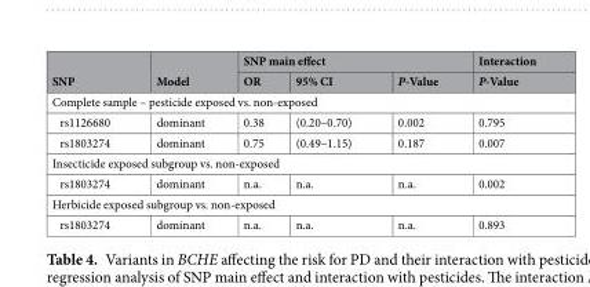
<table><thead><tr><td rowspan="2">SNP</td><td rowspan="2">Model</td><td colspan="3">SNP main effect</td><td rowspan="2">Interaction P-Value</td></tr><tr><td>OR</td><td>95% CI</td><td>P-Value</td></tr></thead><tbody><tr><td colspan="6">Complete sample – pesticide exposed vs. non-exposed</td></tr><tr><td>rs1126680</td><td>dominant</td><td>0.38</td><td>(0.20–0.70)</td><td>0.002</td><td>0.795</td></tr><tr><td>rs1803274</td><td>dominant</td><td>0.75</td><td>(0.49–1.15)</td><td>0.187</td><td>0.007</td></tr><tr><td colspan="6">Insecticide exposed subgroup vs. non-exposed</td></tr><tr><td>rs1803274</td><td>dominant</td><td>n.a.</td><td>n.a.</td><td>n.a.</td><td>0.002</td></tr><tr><td colspan="6">Herbicide exposed subgroup vs. non-exposed</td></tr><tr><td>rs1803274</td><td>dominant</td><td>n.a.</td><td>n.a.</td><td>n.a.</td><td>0.893</td></tr></tbody></table>